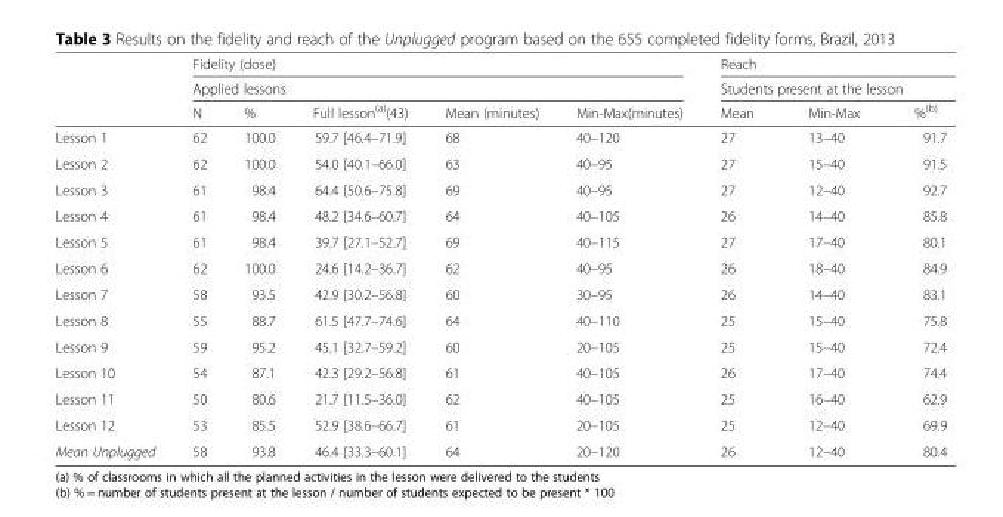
<table><thead><tr><td rowspan="3"></td><td rowspan="2" colspan="5">Fidelity (dose) Applied lessons</td><td rowspan="2" colspan="3">Reach Students present at the lesson</td></tr><tr></tr><tr><td>N</td><td>%</td><td>Full lesson<sup>(a)</sup>(43)</td><td>Mean (minutes)</td><td>Min-Max(minutes)</td><td>Mean</td><td>Min-Max</td><td>%<sup>(b)</sup></td></tr></thead><tbody><tr><td>Lesson 1</td><td>62</td><td>100.0</td><td>59.7 [46.4–71.9]</td><td>68</td><td>40–120</td><td>27</td><td>13–40</td><td>91.7</td></tr><tr><td>Lesson 2</td><td>62</td><td>100.0</td><td>54.0 [40.1–66.0]</td><td>63</td><td>40–95</td><td>27</td><td>15–40</td><td>91.5</td></tr><tr><td>Lesson 3</td><td>61</td><td>98.4</td><td>64.4 [50.6–75.8]</td><td>69</td><td>40–95</td><td>27</td><td>12–40</td><td>92.7</td></tr><tr><td>Lesson 4</td><td>61</td><td>98.4</td><td>48.2 [34.6–60.7]</td><td>64</td><td>40–105</td><td>26</td><td>14–40</td><td>85.8</td></tr><tr><td>Lesson 5</td><td>61</td><td>98.4</td><td>39.7 [27.1–52.7]</td><td>69</td><td>40–115</td><td>27</td><td>17–40</td><td>80.1</td></tr><tr><td>Lesson 6</td><td>62</td><td>100.0</td><td>24.6 [14.2–36.7]</td><td>62</td><td>40–95</td><td>26</td><td>18–40</td><td>84.9</td></tr><tr><td>Lesson 7</td><td>58</td><td>93.5</td><td>42.9 [30.2–56.8]</td><td>60</td><td>30–95</td><td>26</td><td>14–40</td><td>83.1</td></tr><tr><td>Lesson 8</td><td>55</td><td>88.7</td><td>61.5 [47.7–74.6]</td><td>64</td><td>40–110</td><td>25</td><td>15–40</td><td>75.8</td></tr><tr><td>Lesson 9</td><td>59</td><td>95.2</td><td>45.1 [32.7–59.2]</td><td>60</td><td>20–105</td><td>25</td><td>15–40</td><td>72.4</td></tr><tr><td>Lesson 10</td><td>54</td><td>87.1</td><td>42.3 [29.2–56.8]</td><td>61</td><td>40–105</td><td>26</td><td>17–40</td><td>74.4</td></tr><tr><td>Lesson 11</td><td>50</td><td>80.6</td><td>21.7 [11.5–36.0]</td><td>62</td><td>40–105</td><td>25</td><td>16–40</td><td>62.9</td></tr><tr><td>Lesson 12</td><td>53</td><td>85.5</td><td>52.9 [38.6–66.7]</td><td>61</td><td>20–105</td><td>25</td><td>12–40</td><td>69.9</td></tr><tr><td>Mean Unplugged</td><td>58</td><td>93.8</td><td>46.4 [33.3–60.1]</td><td>64</td><td>20–120</td><td>26</td><td>12–40</td><td>80.4</td></tr></tbody></table>